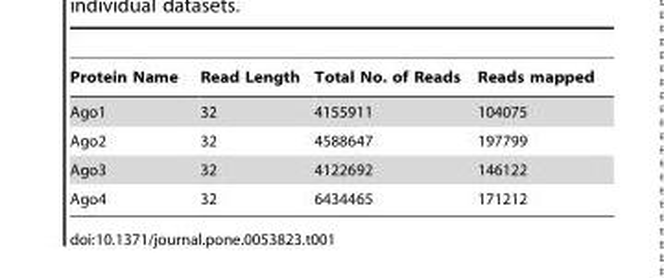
<table><thead><tr><td>Protein Name</td><td>Read Length</td><td>Total No. of Reads</td><td>Reads mapped</td></tr></thead><tbody><tr><td>Ago1</td><td>32</td><td>4155911</td><td>104075</td></tr><tr><td>Ago2</td><td>32</td><td>4588647</td><td>197799</td></tr><tr><td>Ago3</td><td>32</td><td>4122692</td><td>146122</td></tr><tr><td>Ago4</td><td>32</td><td>6434465</td><td>171212</td></tr></tbody></table>